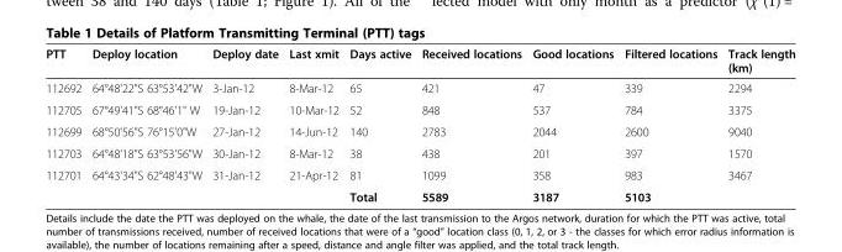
<table><thead><tr><td>PTT</td><td>Deploy location</td><td>Deploy date</td><td>Last xmit</td><td>Days active</td><td>Received locations</td><td>Good locations</td><td>Filtered locations</td><td>Track length (km)</td></tr></thead><tbody><tr><td>112692</td><td>64°48&#x27;22&quot;S 63°53&#x27;42&quot;W</td><td>3-Jan-12</td><td>8-Mar-12</td><td>65</td><td>421</td><td>47</td><td>339</td><td>2294</td></tr><tr><td>112705</td><td>67°49&#x27;41&quot;S 68°46&#x27;1&quot; W</td><td>19-Jan-12</td><td>10-Mar-12</td><td>52</td><td>848</td><td>537</td><td>784</td><td>3375</td></tr><tr><td>112699</td><td>68°50&#x27;56&quot;S 76°15&#x27;0&quot;W</td><td>27-Jan-12</td><td>14-Jun-12</td><td>140</td><td>2783</td><td>2044</td><td>2600</td><td>9040</td></tr><tr><td>112703</td><td>64°48&#x27;18&quot;S 63°53&#x27;56&quot;W</td><td>30-Jan-12</td><td>8-Mar-12</td><td>38</td><td>438</td><td>201</td><td>397</td><td>1570</td></tr><tr><td rowspan="2">112701</td><td>64°43&#x27;34&quot;S 62°48&#x27;43&quot;W</td><td>31-Jan-12</td><td>21-Apr-12</td><td>81</td><td>1099</td><td>358</td><td>983</td><td>3467</td></tr><tr><td></td><td></td><td></td><td>Total</td><td>5589</td><td>3187</td><td>5103</td><td></td></tr></tbody></table>